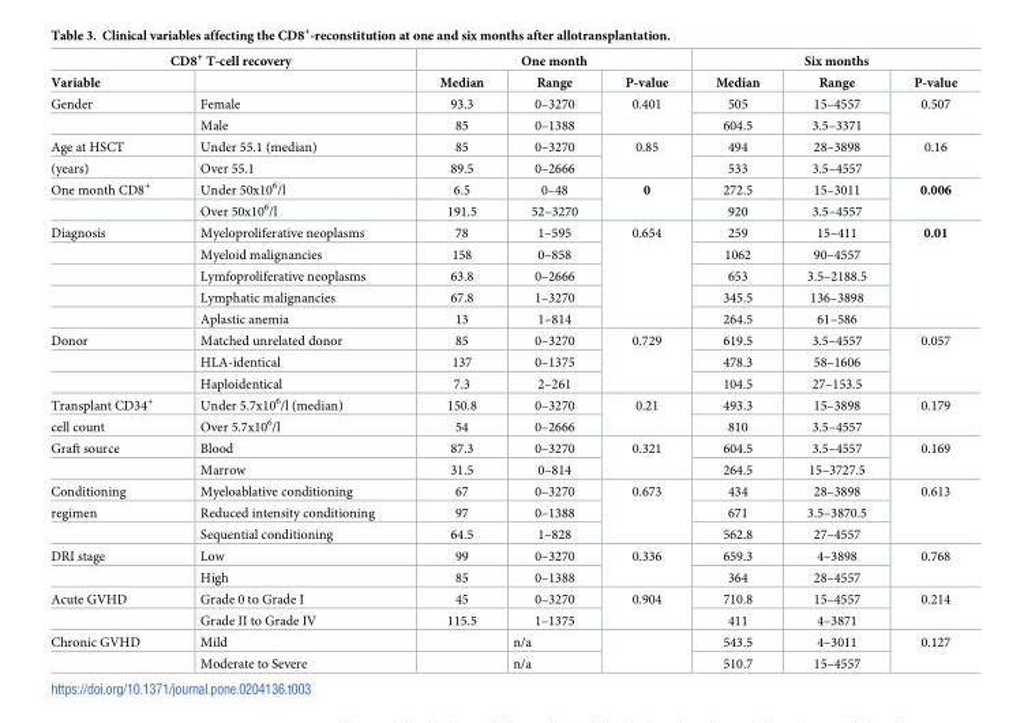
<table><thead><tr><td colspan="2">CD8<sup>+</sup> T-cell recovery</td><td colspan="3">One month</td><td colspan="3">Six months</td></tr><tr><td>Variable</td><td></td><td>Median</td><td>Range</td><td>P-value</td><td>Median</td><td>Range</td><td>P-value</td></tr></thead><tbody><tr><td rowspan="2">Gender</td><td>Female</td><td>93.3</td><td>0–3270</td><td rowspan="2">0.401</td><td>505</td><td>15–4557</td><td rowspan="2">0.507</td></tr><tr><td>Male</td><td>85</td><td>0–1388</td><td>604.5</td><td>3.5–3371</td></tr><tr><td>Age at HSCT</td><td>Under 55.1 (median)</td><td>85</td><td>0–3270</td><td rowspan="2">0.85</td><td>494</td><td>28–3898</td><td rowspan="2">0.16</td></tr><tr><td>(years)</td><td>Over 55.1</td><td>89.5</td><td>0–2666</td><td>533</td><td>3.5–4557</td></tr><tr><td rowspan="2">One month CD8<sup>+</sup></td><td>Under 50x10<sup>6</sup>/l</td><td>6.5</td><td>0–48</td><td rowspan="2">0</td><td>272.5</td><td>15–3011</td><td rowspan="2">0.006</td></tr><tr><td>Over 50x10<sup>6</sup>/l</td><td>191.5</td><td>52–3270</td><td>920</td><td>3.5–4557</td></tr><tr><td rowspan="5">Diagnosis</td><td>Myeloproliferative neoplasms</td><td>78</td><td>1–595</td><td rowspan="5">0.654</td><td>259</td><td>15–411</td><td rowspan="5">0.01</td></tr><tr><td>Myeloid malignancies</td><td>158</td><td>0–858</td><td>1062</td><td>90–4557</td></tr><tr><td>Lymfoproliferative neoplasms</td><td>63.8</td><td>0–2666</td><td>653</td><td>3.5–2188.5</td></tr><tr><td>Lymphatic malignancies</td><td>67.8</td><td>1–3270</td><td>345.5</td><td>136–3898</td></tr><tr><td>Aplastic anemia</td><td>13</td><td>1–814</td><td>264.5</td><td>61–586</td></tr><tr><td rowspan="3">Donor</td><td>Matched unrelated donor</td><td>85</td><td>0–3270</td><td rowspan="3">0.729</td><td>619.5</td><td>3.5–4557</td><td rowspan="3">0.057</td></tr><tr><td>HLA-identical</td><td>137</td><td>0–1375</td><td>478.3</td><td>58–1606</td></tr><tr><td>Haploidentical</td><td>7.3</td><td>2–261</td><td>104.5</td><td>27–153.5</td></tr><tr><td>Transplant CD34<sup>+</sup></td><td>Under 5.7x10<sup>6</sup>/l (median)</td><td>150.8</td><td>0–3270</td><td rowspan="2">0.21</td><td>493.3</td><td>15–3898</td><td rowspan="2">0.179</td></tr><tr><td>cell count</td><td>Over 5.7x10<sup>6</sup>/l</td><td>54</td><td>0–2666</td><td>810</td><td>3.5–4557</td></tr><tr><td rowspan="2">Graft source</td><td>Blood</td><td>87.3</td><td>0–3270</td><td rowspan="2">0.321</td><td>604.5</td><td>3.5–4557</td><td rowspan="2">0.169</td></tr><tr><td>Marrow</td><td>31.5</td><td>0–814</td><td>264.5</td><td>15–3727.5</td></tr><tr><td>Conditioning</td><td>Myeloablative conditioning</td><td>67</td><td>0–3270</td><td rowspan="3">0.673</td><td>434</td><td>28–3898</td><td rowspan="3">0.613</td></tr><tr><td rowspan="2">regimen</td><td>Reduced intensity conditioning</td><td>97</td><td>0–1388</td><td>671</td><td>3.5–3870.5</td></tr><tr><td>Sequential conditioning</td><td>64.5</td><td>1–828</td><td>562.8</td><td>27–4557</td></tr><tr><td rowspan="2">DRI stage</td><td>Low</td><td>99</td><td>0–3270</td><td rowspan="2">0.336</td><td>659.3</td><td>4–3898</td><td rowspan="2">0.768</td></tr><tr><td>High</td><td>85</td><td>0–1388</td><td>364</td><td>28–4557</td></tr><tr><td rowspan="2">Acute GVHD</td><td>Grade 0 to Grade I</td><td>45</td><td>0–3270</td><td rowspan="2">0.904</td><td>710.8</td><td>15–4557</td><td rowspan="2">0.214</td></tr><tr><td>Grade II to Grade IV</td><td>115.5</td><td>1–1375</td><td>411</td><td>4–3871</td></tr><tr><td rowspan="2">Chronic GVHD</td><td>Mild</td><td></td><td>n/a</td><td rowspan="2"></td><td>543.5</td><td>4–3011</td><td rowspan="2">0.127</td></tr><tr><td>Moderate to Severe</td><td></td><td>n/a</td><td>510.7</td><td>15–4557</td></tr></tbody></table>